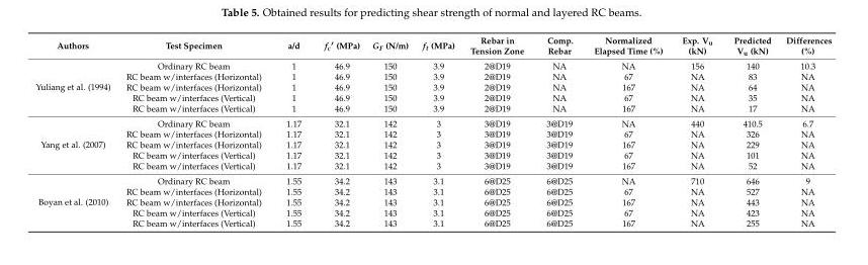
<table><thead><tr><td>Authors</td><td>Test Specimen</td><td>a/d</td><td>f<sub>c</sub>′ (MPa)</td><td>G<sub>F</sub> (N/m)</td><td>f<sub>t</sub> (MPa)</td><td>Rebar in Tension Zone</td><td>Comp. Rebar</td><td>Normalized Elapsed Time (%)</td><td>Exp. V<sub>u</sub> (kN)</td><td>Predicted V<sub>u</sub> (kN)</td><td>Differences (%)</td></tr></thead><tbody><tr><td rowspan="5">Yuliang et al. (1994)</td><td>Ordinary RC beam</td><td>1</td><td>46.9</td><td>150</td><td>3.9</td><td>2@D19</td><td>NA</td><td>NA</td><td>156</td><td>140</td><td>10.3</td></tr><tr><td>RC beam w/interfaces (Horizontal)</td><td>1</td><td>46.9</td><td>150</td><td>3.9</td><td>2@D19</td><td>NA</td><td>67</td><td>NA</td><td>83</td><td>NA</td></tr><tr><td>RC beam w/interfaces (Horizontal)</td><td>1</td><td>46.9</td><td>150</td><td>3.9</td><td>2@D19</td><td>NA</td><td>167</td><td>NA</td><td>64</td><td>NA</td></tr><tr><td>RC beam w/interfaces (Vertical)</td><td>1</td><td>46.9</td><td>150</td><td>3.9</td><td>2@D19</td><td>NA</td><td>67</td><td>NA</td><td>35</td><td>NA</td></tr><tr><td>RC beam w/interfaces (Vertical)</td><td>1</td><td>46.9</td><td>150</td><td>3.9</td><td>2@D19</td><td>NA</td><td>167</td><td>NA</td><td>17</td><td>NA</td></tr><tr><td rowspan="5">Yang et al. (2007)</td><td>Ordinary RC beam</td><td>1.17</td><td>32.1</td><td>142</td><td>3</td><td>3@D19</td><td>3@D19</td><td>NA</td><td>440</td><td>410.5</td><td>6.7</td></tr><tr><td>RC beam w/interfaces (Horizontal)</td><td>1.17</td><td>32.1</td><td>142</td><td>3</td><td>3@D19</td><td>3@D19</td><td>67</td><td>NA</td><td>326</td><td>NA</td></tr><tr><td>RC beam w/interfaces (Horizontal)</td><td>1.17</td><td>32.1</td><td>142</td><td>3</td><td>3@D19</td><td>3@D19</td><td>167</td><td>NA</td><td>229</td><td>NA</td></tr><tr><td>RC beam w/interfaces (Vertical)</td><td>1.17</td><td>32.1</td><td>142</td><td>3</td><td>3@D19</td><td>3@D19</td><td>67</td><td>NA</td><td>101</td><td>NA</td></tr><tr><td>RC beam w/interfaces (Vertical)</td><td>1.17</td><td>32.1</td><td>142</td><td>3</td><td>3@D19</td><td>3@D19</td><td>167</td><td>NA</td><td>52</td><td>NA</td></tr><tr><td rowspan="5">Boyan et al. (2010)</td><td>Ordinary RC beam</td><td>1.55</td><td>34.2</td><td>143</td><td>3.1</td><td>6@D25</td><td>6@D25</td><td>NA</td><td>710</td><td>646</td><td>9</td></tr><tr><td>RC beam w/interfaces (Horizontal)</td><td>1.55</td><td>34.2</td><td>143</td><td>3.1</td><td>6@D25</td><td>6@D25</td><td>67</td><td>NA</td><td>527</td><td>NA</td></tr><tr><td>RC beam w/interfaces (Horizontal)</td><td>1.55</td><td>34.2</td><td>143</td><td>3.1</td><td>6@D25</td><td>6@D25</td><td>167</td><td>NA</td><td>443</td><td>NA</td></tr><tr><td>RC beam w/interfaces (Vertical)</td><td>1.55</td><td>34.2</td><td>143</td><td>3.1</td><td>6@D25</td><td>6@D25</td><td>67</td><td>NA</td><td>423</td><td>NA</td></tr><tr><td>RC beam w/interfaces (Vertical)</td><td>1.55</td><td>34.2</td><td>143</td><td>3.1</td><td>6@D25</td><td>6@D25</td><td>167</td><td>NA</td><td>255</td><td>NA</td></tr></tbody></table>